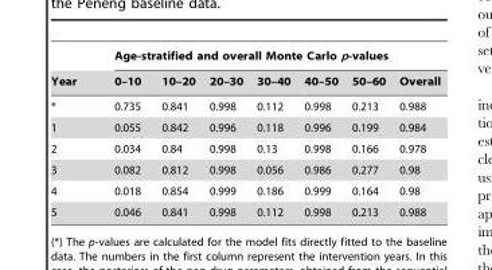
<table><thead><tr><td rowspan="2">Year</td><td colspan="7">Age-stratified and overall Monte Carlo p-values</td></tr><tr><td>0–10</td><td>10–20</td><td>20–30</td><td>30–40</td><td>40–50</td><td>50–60</td><td>Overall</td></tr></thead><tbody><tr><td>*</td><td>0.735</td><td>0.841</td><td>0.998</td><td>0.112</td><td>0.998</td><td>0.213</td><td>0.988</td></tr><tr><td>1</td><td>0.055</td><td>0.842</td><td>0.996</td><td>0.118</td><td>0.996</td><td>0.199</td><td>0.984</td></tr><tr><td>2</td><td>0.034</td><td>0.84</td><td>0.998</td><td>0.13</td><td>0.998</td><td>0.166</td><td>0.978</td></tr><tr><td>3</td><td>0.082</td><td>0.812</td><td>0.998</td><td>0.056</td><td>0.986</td><td>0.277</td><td>0.98</td></tr><tr><td>4</td><td>0.018</td><td>0.854</td><td>0.999</td><td>0.186</td><td>0.999</td><td>0.164</td><td>0.98</td></tr><tr><td>5</td><td>0.046</td><td>0.841</td><td>0.998</td><td>0.112</td><td>0.998</td><td>0.213</td><td>0.988</td></tr></tbody></table>